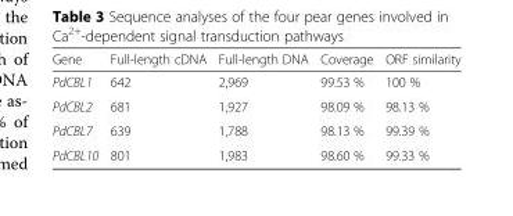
<table><thead><tr><td>Gene</td><td>Full-length cDNA</td><td>Full-length DNA</td><td>Coverage</td><td>ORF similarity</td></tr></thead><tbody><tr><td>PdCBL1</td><td>642</td><td>2,969</td><td>99.53 %</td><td>100 %</td></tr><tr><td>PdCBL2</td><td>681</td><td>1,927</td><td>98.09 %</td><td>98.13 %</td></tr><tr><td>PdCBL7</td><td>639</td><td>1,788</td><td>98.13 %</td><td>99.39 %</td></tr><tr><td>PdCBL10</td><td>801</td><td>1,983</td><td>98.60 %</td><td>99.33 %</td></tr></tbody></table>